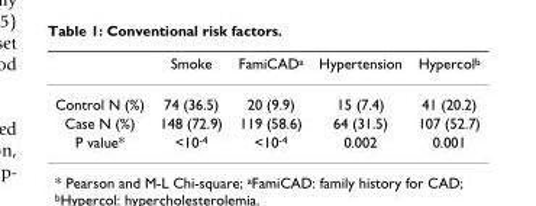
<table><thead><tr><td></td><td>Smoke</td><td>FamiCAD<sup>a</sup></td><td>Hypertension</td><td>Hypercol<sup>b</sup></td></tr></thead><tbody><tr><td>Control N (%)</td><td>74 (36.5)</td><td>20 (9.9)</td><td>15 (7.4)</td><td>41 (20.2)</td></tr><tr><td>Case N (%)</td><td>148 (72.9)</td><td>119 (58.6)</td><td>64 (31.5)</td><td>107 (52.7)</td></tr><tr><td>P value*</td><td>&lt;10<sup>-4</sup></td><td>&lt;10<sup>-4</sup></td><td>0.002</td><td>0.001</td></tr></tbody></table>